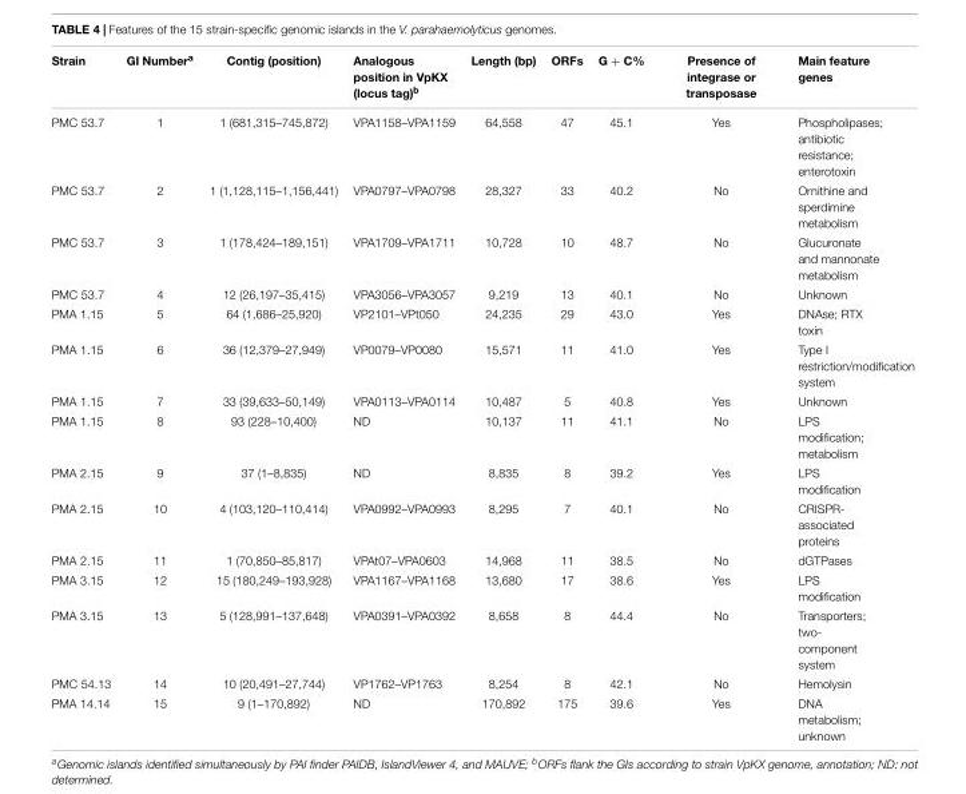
<table><thead><tr><td>Strain</td><td>GI Number<sup>a</sup></td><td>Contig (position)</td><td>Analogous position in VpKX (locus tag)<sup>b</sup></td><td>Length (bp)</td><td>ORFs</td><td>G + C%</td><td>Presence of integrase or transposase</td><td>Main feature genes</td></tr></thead><tbody><tr><td>PMC 53.7</td><td>1</td><td>1 (681,315–745,872)</td><td>VPA1158–VPA1159</td><td>64,558</td><td>47</td><td>45.1</td><td>Yes</td><td>Phospholipases; antibiotic resistance; enterotoxin</td></tr><tr><td>PMC 53.7</td><td>2</td><td>1 (1,128,115–1,156,441)</td><td>VPA0797–VPA0798</td><td>28,327</td><td>33</td><td>40.2</td><td>No</td><td>Ornithine and sperdimine metabolism</td></tr><tr><td>PMC 53.7</td><td>3</td><td>1 (178,424–189,151)</td><td>VPA1709–VPA1711</td><td>10,728</td><td>10</td><td>48.7</td><td>No</td><td>Glucuronate and mannonate metabolism</td></tr><tr><td>PMC 53.7</td><td>4</td><td>12 (26,197–35,415)</td><td>VPA3056–VPA3057</td><td>9,219</td><td>13</td><td>40.1</td><td>No</td><td>Unknown</td></tr><tr><td>PMA 1.15</td><td>5</td><td>64 (1,686–25,920)</td><td>VP2101–VPt050</td><td>24,235</td><td>29</td><td>43.0</td><td>Yes</td><td>DNAse; RTX toxin</td></tr><tr><td>PMA 1.15</td><td>6</td><td>36 (12,379–27,949)</td><td>VP0079–VP0080</td><td>15,571</td><td>11</td><td>41.0</td><td>Yes</td><td>Type I restriction/modification system</td></tr><tr><td>PMA 1.15</td><td>7</td><td>33 (39,633–50,149)</td><td>VPA0113–VPA0114</td><td>10,487</td><td>5</td><td>40.8</td><td>Yes</td><td>Unknown</td></tr><tr><td>PMA 1.15</td><td>8</td><td>93 (228–10,400)</td><td>ND</td><td>10,137</td><td>11</td><td>41.1</td><td>No</td><td>LPS modification; metabolism</td></tr><tr><td>PMA 2.15</td><td>9</td><td>37 (1–8,835)</td><td>ND</td><td>8,835</td><td>8</td><td>39.2</td><td>Yes</td><td>LPS modification</td></tr><tr><td>PMA 2.15</td><td>10</td><td>4 (103,120–110,414)</td><td>VPA0992–VPA0993</td><td>8,295</td><td>7</td><td>40.1</td><td>No</td><td>CRISPR- associated proteins</td></tr><tr><td>PMA 2.15</td><td>11</td><td>1 (70,850–85,817)</td><td>VPAt07–VPA0603</td><td>14,968</td><td>11</td><td>38.5</td><td>No</td><td>dGTPases</td></tr><tr><td>PMA 3.15</td><td>12</td><td>15 (180,249–193,928)</td><td>VPA1167–VPA1168</td><td>13,680</td><td>17</td><td>38.6</td><td>Yes</td><td>LPS modification</td></tr><tr><td>PMA 3.15</td><td>13</td><td>5 (128,991–137,648)</td><td>VPA0391–VPA0392</td><td>8,658</td><td>8</td><td>44.4</td><td>No</td><td>Transporters; two- component system</td></tr><tr><td>PMC 54.13</td><td>14</td><td>10 (20,491–27,744)</td><td>VP1762–VP1763</td><td>8,254</td><td>8</td><td>42.1</td><td>No</td><td>Hemolysin</td></tr><tr><td>PMA 14.14</td><td>15</td><td>9 (1–170,892)</td><td>ND</td><td>170,892</td><td>175</td><td>39.6</td><td>Yes</td><td>DNA metabolism; unknown</td></tr></tbody></table>